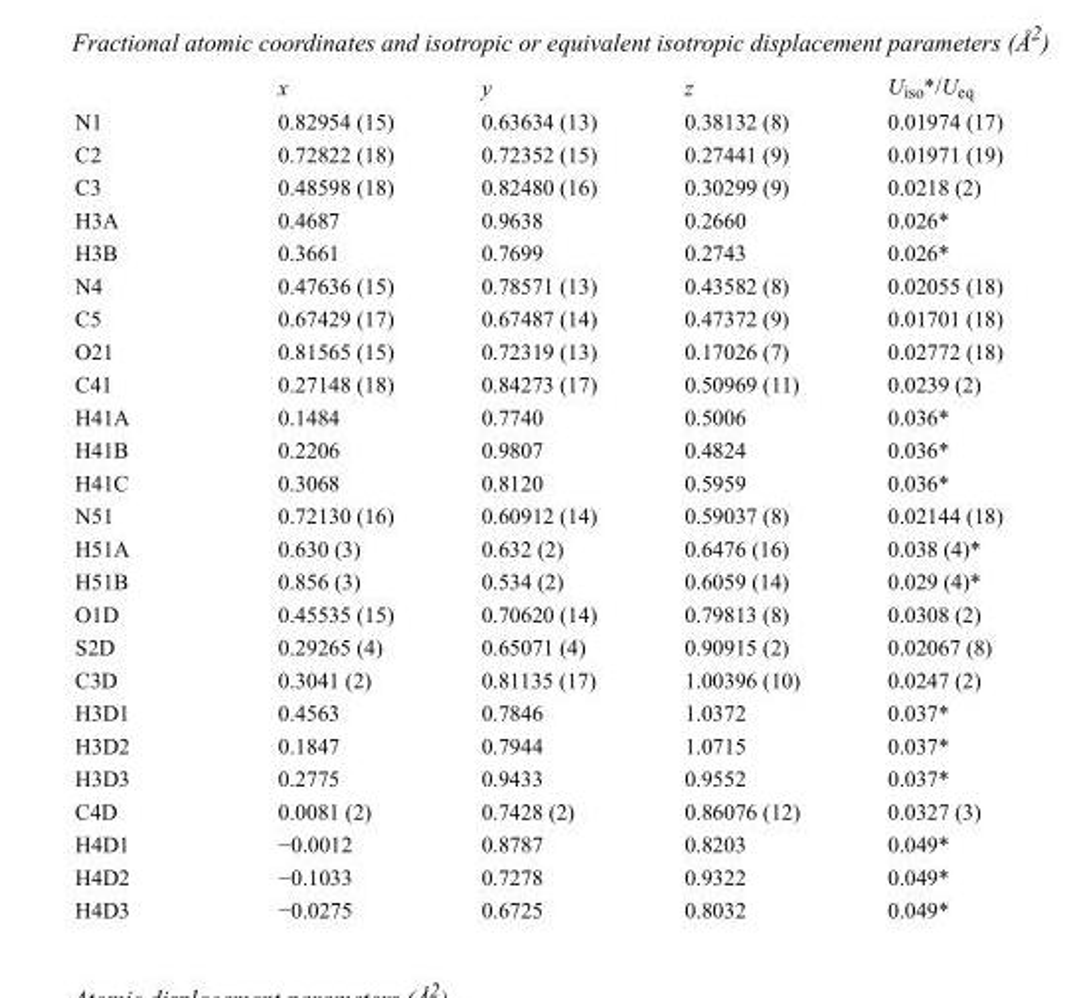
<table><thead><tr><td></td><td>x</td><td>y</td><td>z</td><td>U<sub>iso</sub>*/U<sub>eq</sub></td></tr></thead><tbody><tr><td>N1</td><td>0.82954 (15)</td><td>0.63634 (13)</td><td>0.38132 (8)</td><td>0.01974 (17)</td></tr><tr><td>C2</td><td>0.72822 (18)</td><td>0.72352 (15)</td><td>0.27441 (9)</td><td>0.01971 (19)</td></tr><tr><td>C3</td><td>0.48598 (18)</td><td>0.82480 (16)</td><td>0.30299 (9)</td><td>0.0218 (2)</td></tr><tr><td>H3A</td><td>0.4687</td><td>0.9638</td><td>0.2660</td><td>0.026*</td></tr><tr><td>H3B</td><td>0.3661</td><td>0.7699</td><td>0.2743</td><td>0.026*</td></tr><tr><td>N4</td><td>0.47636 (15)</td><td>0.78571 (13)</td><td>0.43582 (8)</td><td>0.02055 (18)</td></tr><tr><td>C5</td><td>0.67429 (17)</td><td>0.67487 (14)</td><td>0.47372 (9)</td><td>0.01701 (18)</td></tr><tr><td>O21</td><td>0.81565 (15)</td><td>0.72319 (13)</td><td>0.17026 (7)</td><td>0.02772 (18)</td></tr><tr><td>C41</td><td>0.27148 (18)</td><td>0.84273 (17)</td><td>0.50969 (11)</td><td>0.0239 (2)</td></tr><tr><td>H41A</td><td>0.1484</td><td>0.7740</td><td>0.5006</td><td>0.036*</td></tr><tr><td>H41B</td><td>0.2206</td><td>0.9807</td><td>0.4824</td><td>0.036*</td></tr><tr><td>H41C</td><td>0.3068</td><td>0.8120</td><td>0.5959</td><td>0.036*</td></tr><tr><td>N51</td><td>0.72130 (16)</td><td>0.60912 (14)</td><td>0.59037 (8)</td><td>0.02144 (18)</td></tr><tr><td>H51A</td><td>0.630 (3)</td><td>0.632 (2)</td><td>0.6476 (16)</td><td>0.038 (4)*</td></tr><tr><td>H51B</td><td>0.856 (3)</td><td>0.534 (2)</td><td>0.6059 (14)</td><td>0.029 (4)*</td></tr><tr><td>O1D</td><td>0.45535 (15)</td><td>0.70620 (14)</td><td>0.79813 (8)</td><td>0.0308 (2)</td></tr><tr><td>S2D</td><td>0.29265 (4)</td><td>0.65071 (4)</td><td>0.90915 (2)</td><td>0.02067 (8)</td></tr><tr><td>C3D</td><td>0.3041 (2)</td><td>0.81135 (17)</td><td>1.00396 (10)</td><td>0.0247 (2)</td></tr><tr><td>H3D1</td><td>0.4563</td><td>0.7846</td><td>1.0372</td><td>0.037*</td></tr><tr><td>H3D2</td><td>0.1847</td><td>0.7944</td><td>1.0715</td><td>0.037*</td></tr><tr><td>H3D3</td><td>0.2775</td><td>0.9433</td><td>0.9552</td><td>0.037*</td></tr><tr><td>C4D</td><td>0.0081 (2)</td><td>0.7428 (2)</td><td>0.86076 (12)</td><td>0.0327 (3)</td></tr><tr><td>H4D1</td><td>−0.0012</td><td>0.8787</td><td>0.8203</td><td>0.049*</td></tr><tr><td>H4D2</td><td>−0.1033</td><td>0.7278</td><td>0.9322</td><td>0.049*</td></tr><tr><td>H4D3</td><td>−0.0275</td><td>0.6725</td><td>0.8032</td><td>0.049*</td></tr></tbody></table>